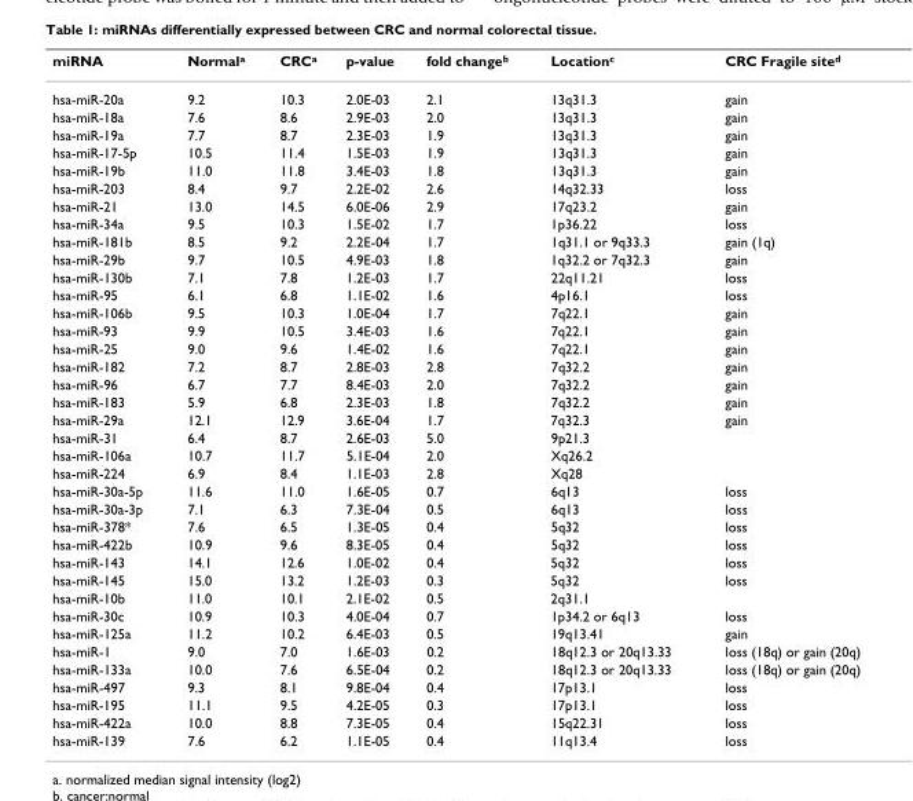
<table><thead><tr><td>miRNA</td><td>Normal<sup>a</sup></td><td>CRC<sup>a</sup></td><td>p-value</td><td>fold change<sup>b</sup></td><td>Location<sup>c</sup></td><td>CRC Fragile site<sup>d</sup></td></tr></thead><tbody><tr><td>hsa-miR-20a</td><td>9.2</td><td>10.3</td><td>2.0E-03</td><td>2.1</td><td>13q31.3</td><td>gain</td></tr><tr><td>hsa-miR-18a</td><td>7.6</td><td>8.6</td><td>2.9E-03</td><td>2.0</td><td>13q31.3</td><td>gain</td></tr><tr><td>hsa-miR-19a</td><td>7.7</td><td>8.7</td><td>2.3E-03</td><td>1.9</td><td>13q31.3</td><td>gain</td></tr><tr><td>hsa-miR-17-5p</td><td>10.5</td><td>11.4</td><td>1.5E-03</td><td>1.9</td><td>13q31.3</td><td>gain</td></tr><tr><td>hsa-miR-19b</td><td>11.0</td><td>11.8</td><td>3.4E-03</td><td>1.8</td><td>13q31.3</td><td>gain</td></tr><tr><td>hsa-miR-203</td><td>8.4</td><td>9.7</td><td>2.2E-02</td><td>2.6</td><td>14q32.33</td><td>loss</td></tr><tr><td>hsa-miR-21</td><td>13.0</td><td>14.5</td><td>6.0E-06</td><td>2.9</td><td>17q23.2</td><td>gain</td></tr><tr><td>hsa-miR-34a</td><td>9.5</td><td>10.3</td><td>1.5E-02</td><td>1.7</td><td>1p36.22</td><td>loss</td></tr><tr><td>hsa-miR-181b</td><td>8.5</td><td>9.2</td><td>2.2E-04</td><td>1.7</td><td>1q31.1 or 9q33.3</td><td>gain (1q)</td></tr><tr><td>hsa-miR-29b</td><td>9.7</td><td>10.5</td><td>4.9E-03</td><td>1.8</td><td>1q32.2 or 7q32.3</td><td>gain</td></tr><tr><td>hsa-miR-130b</td><td>7.1</td><td>7.8</td><td>1.2E-03</td><td>1.7</td><td>22q11.21</td><td>loss</td></tr><tr><td>hsa-miR-95</td><td>6.1</td><td>6.8</td><td>1.1E-02</td><td>1.6</td><td>4p16.1</td><td>loss</td></tr><tr><td>hsa-miR-106b</td><td>9.5</td><td>10.3</td><td>1.0E-04</td><td>1.7</td><td>7q22.1</td><td>gain</td></tr><tr><td>hsa-miR-93</td><td>9.9</td><td>10.5</td><td>3.4E-03</td><td>1.6</td><td>7q22.1</td><td>gain</td></tr><tr><td>hsa-miR-25</td><td>9.0</td><td>9.6</td><td>1.4E-02</td><td>1.6</td><td>7q22.1</td><td>gain</td></tr><tr><td>hsa-miR-182</td><td>7.2</td><td>8.7</td><td>2.8E-03</td><td>2.8</td><td>7q32.2</td><td>gain</td></tr><tr><td>hsa-miR-96</td><td>6.7</td><td>7.7</td><td>8.4E-03</td><td>2.0</td><td>7q32.2</td><td>gain</td></tr><tr><td>hsa-miR-183</td><td>5.9</td><td>6.8</td><td>2.3E-03</td><td>1.8</td><td>7q32.2</td><td>gain</td></tr><tr><td>hsa-miR-29a</td><td>12.1</td><td>12.9</td><td>3.6E-04</td><td>1.7</td><td>7q32.3</td><td>gain</td></tr><tr><td>hsa-miR-31</td><td>6.4</td><td>8.7</td><td>2.6E-03</td><td>5.0</td><td>9p21.3</td><td></td></tr><tr><td>hsa-miR-106a</td><td>10.7</td><td>11.7</td><td>5.1E-04</td><td>2.0</td><td>Xq26.2</td><td></td></tr><tr><td>hsa-miR-224</td><td>6.9</td><td>8.4</td><td>1.1E-03</td><td>2.8</td><td>Xq28</td><td></td></tr><tr><td>hsa-miR-30a-5p</td><td>11.6</td><td>11.0</td><td>1.6E-05</td><td>0.7</td><td>6q13</td><td>loss</td></tr><tr><td>hsa-miR-30a-3p</td><td>7.1</td><td>6.3</td><td>7.3E-04</td><td>0.5</td><td>6q13</td><td>loss</td></tr><tr><td>hsa-miR-378*</td><td>7.6</td><td>6.5</td><td>1.3E-05</td><td>0.4</td><td>5q32</td><td>loss</td></tr><tr><td>hsa-miR-422b</td><td>10.9</td><td>9.6</td><td>8.3E-05</td><td>0.4</td><td>5q32</td><td>loss</td></tr><tr><td>hsa-miR-143</td><td>14.1</td><td>12.6</td><td>1.0E-02</td><td>0.4</td><td>5q32</td><td>loss</td></tr><tr><td>hsa-miR-145</td><td>15.0</td><td>13.2</td><td>1.2E-03</td><td>0.3</td><td>5q32</td><td>loss</td></tr><tr><td>hsa-miR-10b</td><td>11.0</td><td>10.1</td><td>2.1E-02</td><td>0.5</td><td>2q31.1</td><td></td></tr><tr><td>hsa-miR-30c</td><td>10.9</td><td>10.3</td><td>4.0E-04</td><td>0.7</td><td>1p34.2 or 6q13</td><td>loss</td></tr><tr><td>hsa-miR-125a</td><td>11.2</td><td>10.2</td><td>6.4E-03</td><td>0.5</td><td>19q13.41</td><td>gain</td></tr><tr><td>hsa-miR-1</td><td>9.0</td><td>7.0</td><td>1.6E-03</td><td>0.2</td><td>18q12.3 or 20q13.33</td><td>loss (18q) or gain (20q)</td></tr><tr><td>hsa-miR-133a</td><td>10.0</td><td>7.6</td><td>6.5E-04</td><td>0.2</td><td>18q12.3 or 20q13.33</td><td>loss (18q) or gain (20q)</td></tr><tr><td>hsa-miR-497</td><td>9.3</td><td>8.1</td><td>9.8E-04</td><td>0.4</td><td>17p13.1</td><td>loss</td></tr><tr><td>hsa-miR-195</td><td>11.1</td><td>9.5</td><td>4.2E-05</td><td>0.3</td><td>17p13.1</td><td>loss</td></tr><tr><td>hsa-miR-422a</td><td>10.0</td><td>8.8</td><td>7.3E-05</td><td>0.4</td><td>15q22.31</td><td>loss</td></tr><tr><td>hsa-miR-139</td><td>7.6</td><td>6.2</td><td>1.1E-05</td><td>0.4</td><td>11q13.4</td><td>loss</td></tr></tbody></table>